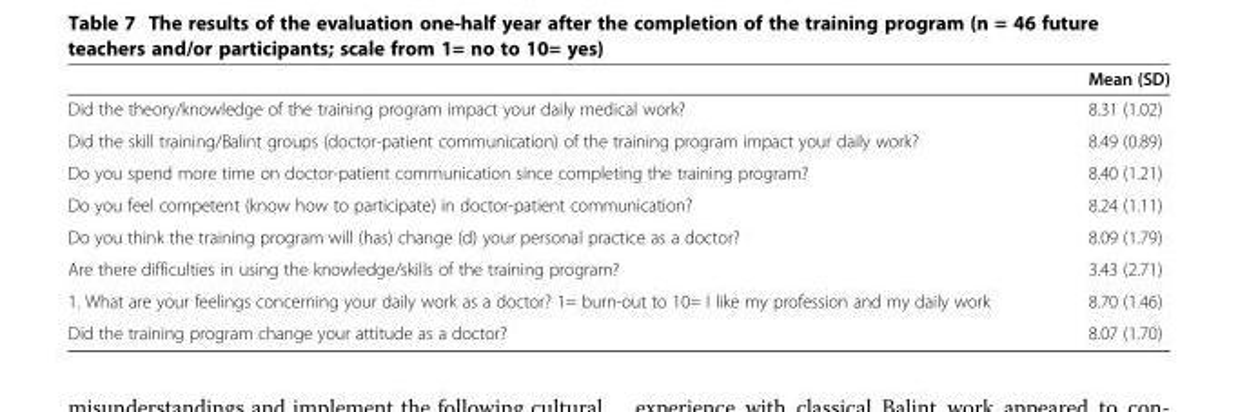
<table><thead><tr><td></td><td>Mean (SD)</td></tr></thead><tbody><tr><td>Did the theory/knowledge of the training program impact your daily medical work?</td><td>8.31 (1.02)</td></tr><tr><td>Did the skill training/Balint groups (doctor-patient communication) of the training program impact your daily work?</td><td>8.49 (0.89)</td></tr><tr><td>Do you spend more time on doctor-patient communication since completing the training program?</td><td>8.40 (1.21)</td></tr><tr><td>Do you feel competent (know how to participate) in doctor-patient communication?</td><td>8.24 (1.11)</td></tr><tr><td>Do you think the training program will (has) change (d) your personal practice as a doctor?</td><td>8.09 (1.79)</td></tr><tr><td>Are there difficulties in using the knowledge/skills of the training program?</td><td>3.43 (2.71)</td></tr><tr><td>1. What are your feelings concerning your daily work as a doctor? 1= burn-out to 10= I like my profession and my daily work</td><td>8.70 (1.46)</td></tr><tr><td>Did the training program change your attitude as a doctor?</td><td>8.07 (1.70)</td></tr></tbody></table>